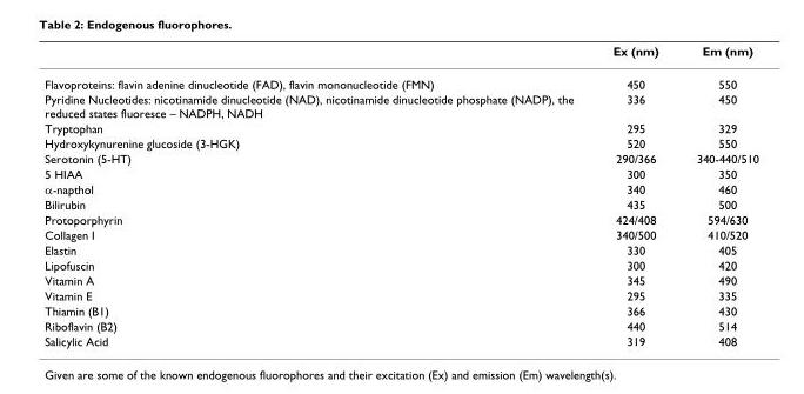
<table><thead><tr><td></td><td>Ex (nm)</td><td>Em (nm)</td></tr></thead><tbody><tr><td>Flavoproteins: flavin adenine dinucleotide (FAD), flavin mononucleotide (FMN)</td><td>450</td><td>550</td></tr><tr><td>Pyridine Nucleotides: nicotinamide dinucleotide (NAD), nicotinamide dinucleotide phosphate (NADP), the reduced states fluoresce – NADPH, NADH</td><td>336</td><td>450</td></tr><tr><td>Tryptophan</td><td>295</td><td>329</td></tr><tr><td>Hydroxykynurenine glucoside (3-HGK)</td><td>520</td><td>550</td></tr><tr><td>Serotonin (5-HT)</td><td>290/366</td><td>340-440/510</td></tr><tr><td>5 HIAA</td><td>300</td><td>350</td></tr><tr><td>α-napthol</td><td>340</td><td>460</td></tr><tr><td>Bilirubin</td><td>435</td><td>500</td></tr><tr><td>Protoporphyrin</td><td>424/408</td><td>594/630</td></tr><tr><td>Collagen I</td><td>340/500</td><td>410/520</td></tr><tr><td>Elastin</td><td>330</td><td>405</td></tr><tr><td>Lipofuscin</td><td>300</td><td>420</td></tr><tr><td>Vitamin A</td><td>345</td><td>490</td></tr><tr><td>Vitamin E</td><td>295</td><td>335</td></tr><tr><td>Thiamin (B1)</td><td>366</td><td>430</td></tr><tr><td>Riboflavin (B2)</td><td>440</td><td>514</td></tr><tr><td>Salicylic Acid</td><td>319</td><td>408</td></tr></tbody></table>